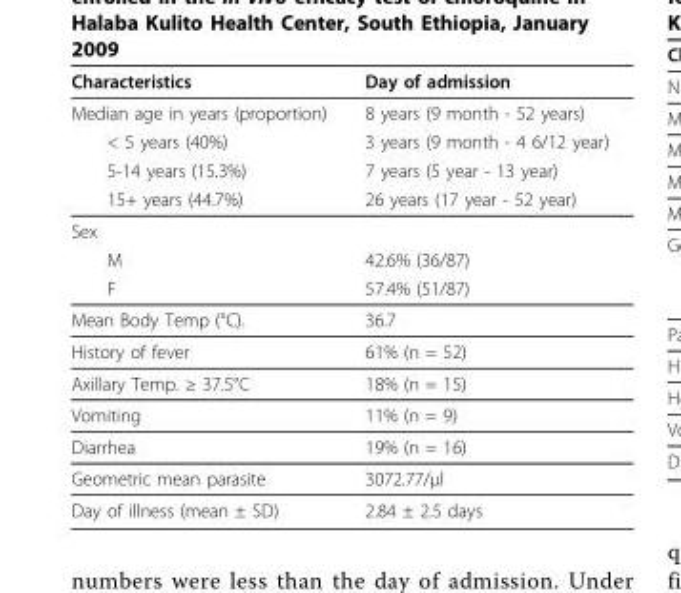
<table><thead><tr><td>Characteristics</td><td>Day of admission</td></tr></thead><tbody><tr><td>Median age in years (proportion)</td><td>8 years (9 month - 52 years)</td></tr><tr><td>&lt; 5 years (40%)</td><td>3 years (9 month - 4 6/12 year)</td></tr><tr><td>5-14 years (15.3%)</td><td>7 years (5 year - 13 year)</td></tr><tr><td>15+ years (44.7%)</td><td>26 years (17 year - 52 year)</td></tr><tr><td colspan="2">Sex</td></tr><tr><td>M</td><td>42.6% (36/87)</td></tr><tr><td>F</td><td>57.4% (51/87)</td></tr><tr><td>Mean Body Temp (°C).</td><td>36.7</td></tr><tr><td>History of fever</td><td>61% (n = 52)</td></tr><tr><td>Axillary Temp. ≥ 37.5°C</td><td>18% (n = 15)</td></tr><tr><td>Vomiting</td><td>11% (n = 9)</td></tr><tr><td>Diarrhea</td><td>19% (n = 16)</td></tr><tr><td>Geometric mean parasite</td><td>3072.77/μl</td></tr><tr><td>Day of illness (mean ± SD)</td><td>2.84 ± 2.5 days</td></tr></tbody></table>